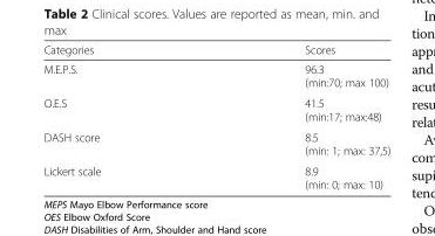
<table><thead><tr><td>Categories</td><td>Scores</td></tr></thead><tbody><tr><td>M.E.P.S.</td><td>96.3 (min:70; max 100)</td></tr><tr><td>O.E.S</td><td>41.5 (min:17; max:48)</td></tr><tr><td>DASH score</td><td>8.5 (min: 1; max: 37,5)</td></tr><tr><td>Lickert scale</td><td>8.9 (min: 0; max: 10)</td></tr></tbody></table>